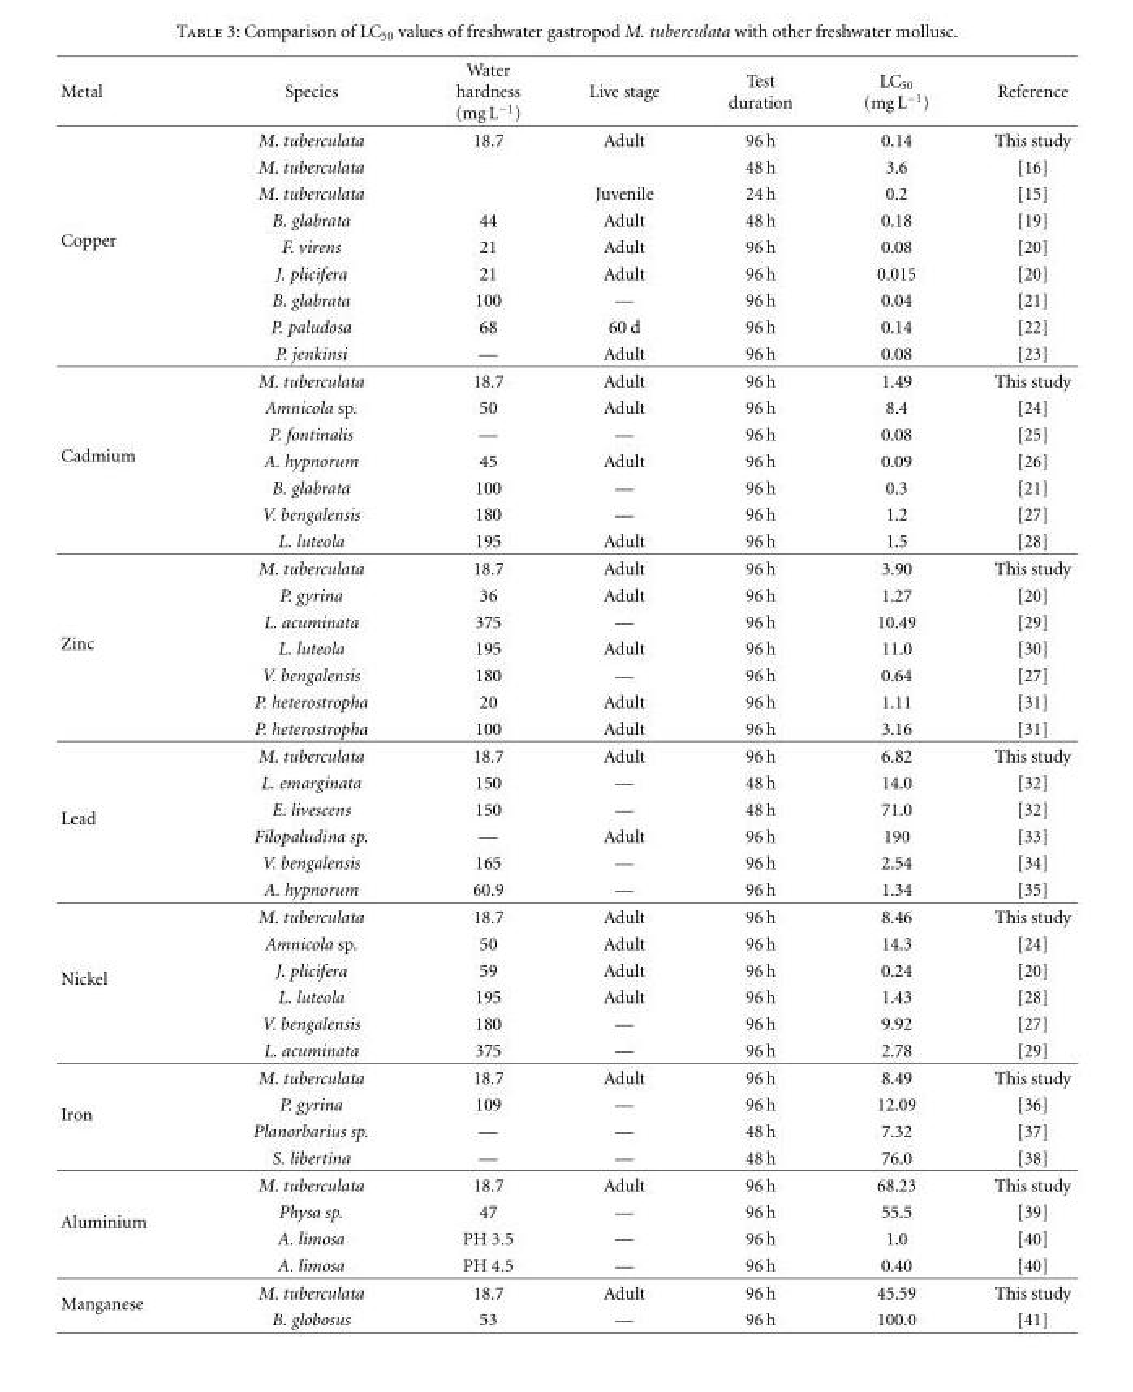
<table><thead><tr><td>Metal</td><td>Species</td><td>Water hardness (mg L<sup>−1</sup>)</td><td>Live stage</td><td>Test duration</td><td>LC<sub>50</sub> (mg L<sup>−1</sup>)</td><td>Reference</td></tr></thead><tbody><tr><td rowspan="9">Copper</td><td>M. tuberculata</td><td>18.7</td><td>Adult</td><td>96 h</td><td>0.14</td><td>This study</td></tr><tr><td>M. tuberculata</td><td></td><td></td><td>48 h</td><td>3.6</td><td>[16]</td></tr><tr><td>M. tuberculata</td><td></td><td>Juvenile</td><td>24 h</td><td>0.2</td><td>[15]</td></tr><tr><td>B. glabrata</td><td>44</td><td>Adult</td><td>48 h</td><td>0.18</td><td>[19]</td></tr><tr><td>F. virens</td><td>21</td><td>Adult</td><td>96 h</td><td>0.08</td><td>[20]</td></tr><tr><td>J. plicifera</td><td>21</td><td>Adult</td><td>96 h</td><td>0.015</td><td>[20]</td></tr><tr><td>B. glabrata</td><td>100</td><td>—</td><td>96 h</td><td>0.04</td><td>[21]</td></tr><tr><td>P. paludosa</td><td>68</td><td>60 d</td><td>96 h</td><td>0.14</td><td>[22]</td></tr><tr><td>P. jenkinsi</td><td>—</td><td>Adult</td><td>96 h</td><td>0.08</td><td>[23]</td></tr><tr><td rowspan="7">Cadmium</td><td>M. tuberculata</td><td>18.7</td><td>Adult</td><td>96 h</td><td>1.49</td><td>This study</td></tr><tr><td>Amnicola sp.</td><td>50</td><td>Adult</td><td>96 h</td><td>8.4</td><td>[24]</td></tr><tr><td>P. fontinalis</td><td>—</td><td>—</td><td>96 h</td><td>0.08</td><td>[25]</td></tr><tr><td>A. hypnorum</td><td>45</td><td>Adult</td><td>96 h</td><td>0.09</td><td>[26]</td></tr><tr><td>B. glabrata</td><td>100</td><td>—</td><td>96 h</td><td>0.3</td><td>[21]</td></tr><tr><td>V. bengalensis</td><td>180</td><td>—</td><td>96 h</td><td>1.2</td><td>[27]</td></tr><tr><td>L. luteola</td><td>195</td><td>Adult</td><td>96 h</td><td>1.5</td><td>[28]</td></tr><tr><td rowspan="7">Zinc</td><td>M. tuberculata</td><td>18.7</td><td>Adult</td><td>96 h</td><td>3.90</td><td>This study</td></tr><tr><td>P. gyrina</td><td>36</td><td>Adult</td><td>96 h</td><td>1.27</td><td>[20]</td></tr><tr><td>L. acuminata</td><td>375</td><td>—</td><td>96 h</td><td>10.49</td><td>[29]</td></tr><tr><td>L. luteola</td><td>195</td><td>Adult</td><td>96 h</td><td>11.0</td><td>[30]</td></tr><tr><td>V. bengalensis</td><td>180</td><td>—</td><td>96 h</td><td>0.64</td><td>[27]</td></tr><tr><td>P. heterostropha</td><td>20</td><td>Adult</td><td>96 h</td><td>1.11</td><td>[31]</td></tr><tr><td>P. heterostropha</td><td>100</td><td>Adult</td><td>96 h</td><td>3.16</td><td>[31]</td></tr><tr><td rowspan="6">Lead</td><td>M. tuberculata</td><td>18.7</td><td>Adult</td><td>96 h</td><td>6.82</td><td>This study</td></tr><tr><td>L. emarginata</td><td>150</td><td>—</td><td>48 h</td><td>14.0</td><td>[32]</td></tr><tr><td>E. livescens</td><td>150</td><td>—</td><td>48 h</td><td>71.0</td><td>[32]</td></tr><tr><td>Filopaludina sp.</td><td>—</td><td>Adult</td><td>96 h</td><td>190</td><td>[33]</td></tr><tr><td>V. bengalensis</td><td>165</td><td>—</td><td>96 h</td><td>2.54</td><td>[34]</td></tr><tr><td>A. hypnorum</td><td>60.9</td><td>—</td><td>96 h</td><td>1.34</td><td>[35]</td></tr><tr><td rowspan="6">Nickel</td><td>M. tuberculata</td><td>18.7</td><td>Adult</td><td>96 h</td><td>8.46</td><td>This study</td></tr><tr><td>Amnicola sp.</td><td>50</td><td>Adult</td><td>96 h</td><td>14.3</td><td>[24]</td></tr><tr><td>J. plicifera</td><td>59</td><td>Adult</td><td>96 h</td><td>0.24</td><td>[20]</td></tr><tr><td>L. luteola</td><td>195</td><td>Adult</td><td>96 h</td><td>1.43</td><td>[28]</td></tr><tr><td>V. bengalensis</td><td>180</td><td>—</td><td>96 h</td><td>9.92</td><td>[27]</td></tr><tr><td>L. acuminata</td><td>375</td><td>—</td><td>96 h</td><td>2.78</td><td>[29]</td></tr><tr><td rowspan="4">Iron</td><td>M. tuberculata</td><td>18.7</td><td>Adult</td><td>96 h</td><td>8.49</td><td>This study</td></tr><tr><td>P. gyrina</td><td>109</td><td>—</td><td>96 h</td><td>12.09</td><td>[36]</td></tr><tr><td>Planorbarius sp.</td><td>—</td><td>—</td><td>48 h</td><td>7.32</td><td>[37]</td></tr><tr><td>S. libertina</td><td>—</td><td>—</td><td>48 h</td><td>76.0</td><td>[38]</td></tr><tr><td rowspan="4">Aluminium</td><td>M. tuberculata</td><td>18.7</td><td>Adult</td><td>96 h</td><td>68.23</td><td>This study</td></tr><tr><td>Physa sp.</td><td>47</td><td>—</td><td>96 h</td><td>55.5</td><td>[39]</td></tr><tr><td>A. limosa</td><td>PH 3.5</td><td>—</td><td>96 h</td><td>1.0</td><td>[40]</td></tr><tr><td>A. limosa</td><td>PH 4.5</td><td>—</td><td>96 h</td><td>0.40</td><td>[40]</td></tr><tr><td rowspan="2">Manganese</td><td>M. tuberculata</td><td>18.7</td><td>Adult</td><td>96 h</td><td>45.59</td><td>This study</td></tr><tr><td>B. globosus</td><td>53</td><td>—</td><td>96 h</td><td>100.0</td><td>[41]</td></tr></tbody></table>